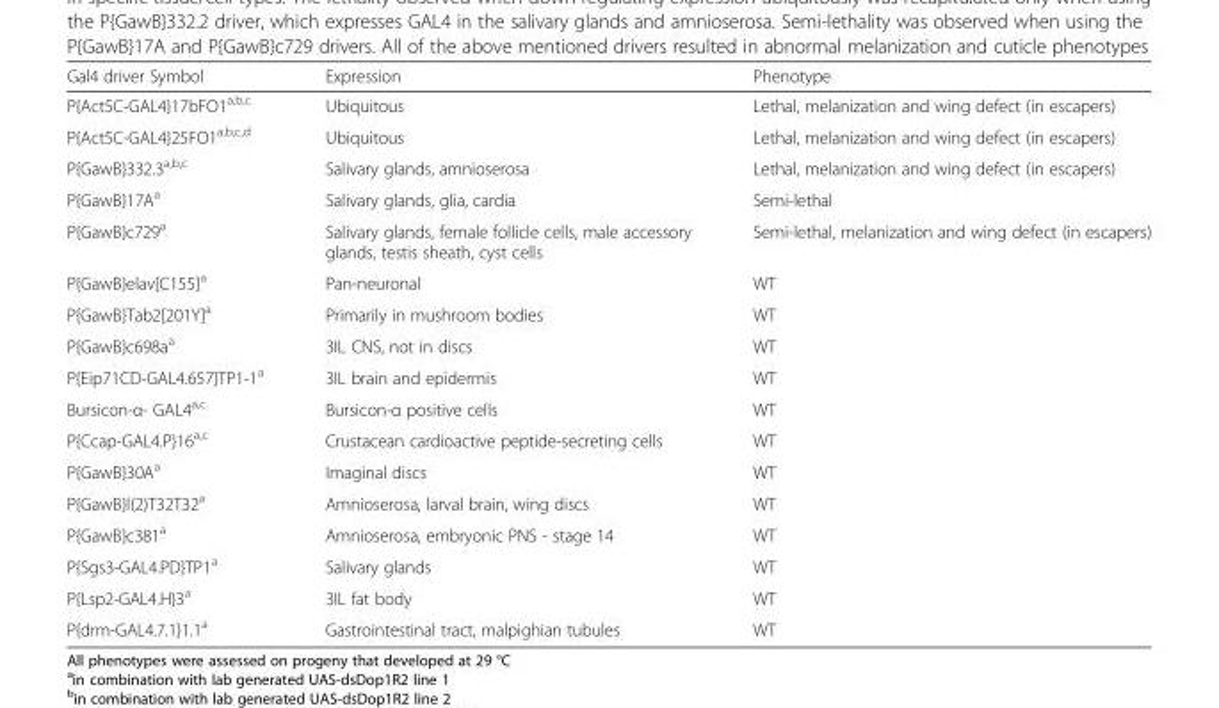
<table><thead><tr><td>Gal4 driver Symbol</td><td>Expression</td><td>Phenotype</td></tr></thead><tbody><tr><td>P{Act5C-GAL4}17bFO1<sup>a,b,c</sup></td><td>Ubiquitous</td><td>Lethal, melanization and wing defect (in escapers)</td></tr><tr><td>P{Act5C-GAL4}25FO1<sup>a,b,c,d</sup></td><td>Ubiquitous</td><td>Lethal, melanization and wing defect (in escapers)</td></tr><tr><td>P{GawB}332.3<sup>a,b,c</sup></td><td>Salivary glands, amnioserosa</td><td>Lethal, melanization and wing defect (in escapers)</td></tr><tr><td>P{GawB}17A<sup>a</sup></td><td>Salivary glands, glia, cardia</td><td>Semi-lethal</td></tr><tr><td>P{GawB}c729<sup>a</sup></td><td>Salivary glands, female follicle cells, male accessory glands, testis sheath, cyst cells</td><td>Semi-lethal, melanization and wing defect (in escapers)</td></tr><tr><td>P{GawB}elav[C155]<sup>a</sup></td><td>Pan-neuronal</td><td>WT</td></tr><tr><td>P{GawB}Tab2[201Y]<sup>a</sup></td><td>Primarily in mushroom bodies</td><td>WT</td></tr><tr><td>P{GawB}c698a<sup>a</sup></td><td>3IL CNS, not in discs</td><td>WT</td></tr><tr><td>P{Eip71CD-GAL4.657}TP1-1<sup>a</sup></td><td>3IL brain and epidermis</td><td>WT</td></tr><tr><td>Bursicon-α- GAL4<sup>a,c</sup></td><td>Bursicon-α positive cells</td><td>WT</td></tr><tr><td>P{Ccap-GAL4.P}16<sup>a,c</sup></td><td>Crustacean cardioactive peptide-secreting cells</td><td>WT</td></tr><tr><td>P{GawB}30A<sup>a</sup></td><td>Imaginal discs</td><td>WT</td></tr><tr><td>P{GawB}l(2)T32T32<sup>a</sup></td><td>Amnioserosa, larval brain, wing discs</td><td>WT</td></tr><tr><td>P{GawB}c381<sup>a</sup></td><td>Amnioserosa, embryonic PNS - stage 14</td><td>WT</td></tr><tr><td>P{Sgs3-GAL4.PD}TP1<sup>a</sup></td><td>Salivary glands</td><td>WT</td></tr><tr><td>P{Lsp2-GAL4.H}3<sup>a</sup></td><td>3IL fat body</td><td>WT</td></tr><tr><td>P{drm-GAL4.7.1}1.1<sup>a</sup></td><td>Gastrointestinal tract, malpighian tubules</td><td>WT</td></tr></tbody></table>